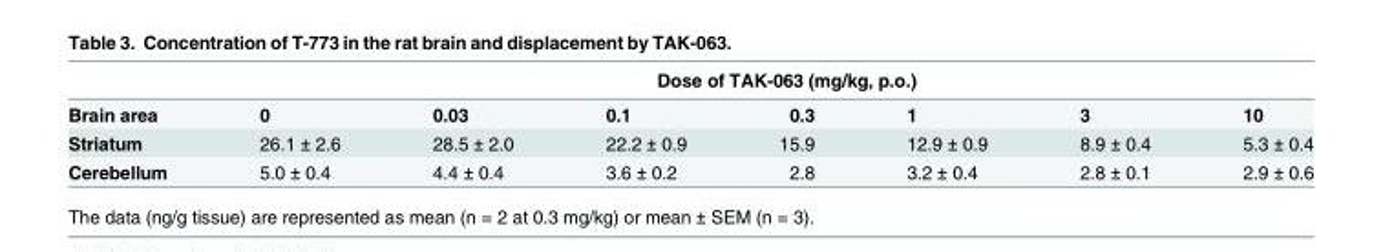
<table><thead><tr><td rowspan="2">Brain area</td><td colspan="7">Dose of TAK-063 (mg/kg, p.o.)</td></tr><tr><td>0</td><td>0.03</td><td>0.1</td><td>0.3</td><td>1</td><td>3</td><td>10</td></tr></thead><tbody><tr><td>Striatum</td><td>26.1 ± 2.6</td><td>28.5 ± 2.0</td><td>22.2 ± 0.9</td><td>15.9</td><td>12.9 ± 0.9</td><td>8.9 ± 0.4</td><td>5.3 ± 0.4</td></tr><tr><td>Cerebellum</td><td>5.0 ± 0.4</td><td>4.4 ± 0.4</td><td>3.6 ± 0.2</td><td>2.8</td><td>3.2 ± 0.4</td><td>2.8 ± 0.1</td><td>2.9 ± 0.6</td></tr></tbody></table>